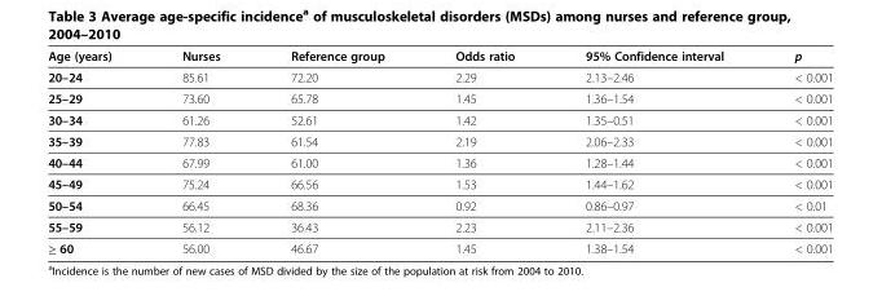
<table><thead><tr><td>Age (years)</td><td>Nurses</td><td>Reference group</td><td>Odds ratio</td><td>95% Confidence interval</td><td>p</td></tr></thead><tbody><tr><td>20–24</td><td>85.61</td><td>72.20</td><td>2.29</td><td>2.13–2.46</td><td>&lt; 0.001</td></tr><tr><td>25–29</td><td>73.60</td><td>65.78</td><td>1.45</td><td>1.36–1.54</td><td>&lt; 0.001</td></tr><tr><td>30–34</td><td>61.26</td><td>52.61</td><td>1.42</td><td>1.35–0.51</td><td>&lt; 0.001</td></tr><tr><td>35–39</td><td>77.83</td><td>61.54</td><td>2.19</td><td>2.06–2.33</td><td>&lt; 0.001</td></tr><tr><td>40–44</td><td>67.99</td><td>61.00</td><td>1.36</td><td>1.28–1.44</td><td>&lt; 0.001</td></tr><tr><td>45–49</td><td>75.24</td><td>66.56</td><td>1.53</td><td>1.44–1.62</td><td>&lt; 0.001</td></tr><tr><td>50–54</td><td>66.45</td><td>68.36</td><td>0.92</td><td>0.86–0.97</td><td>&lt; 0.01</td></tr><tr><td>55–59</td><td>56.12</td><td>36.43</td><td>2.23</td><td>2.11–2.36</td><td>&lt; 0.001</td></tr><tr><td>≥ 60</td><td>56.00</td><td>46.67</td><td>1.45</td><td>1.38–1.54</td><td>&lt; 0.001</td></tr></tbody></table>